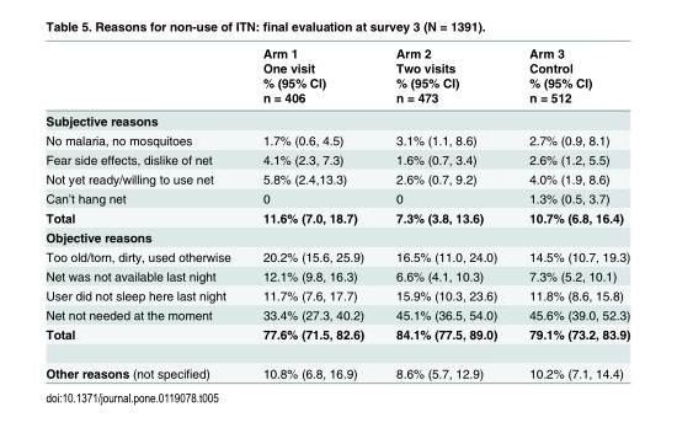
<table><thead><tr><td rowspan="4"></td><td rowspan="4">Arm 1 One visit % (95% CI) n = 406</td><td rowspan="4">Arm 2 Two visits % (95% CI) n = 473</td><td rowspan="4">Arm 3 Control % (95% CI) n = 512</td></tr><tr></tr><tr></tr><tr></tr></thead><tbody><tr><td colspan="4">Subjective reasons</td></tr><tr><td>No malaria, no mosquitoes</td><td>1.7% (0.6, 4.5)</td><td>3.1% (1.1, 8.6)</td><td>2.7% (0.9, 8.1)</td></tr><tr><td>Fear side effects, dislike of net</td><td>4.1% (2.3, 7.3)</td><td>1.6% (0.7, 3.4)</td><td>2.6% (1.2, 5.5)</td></tr><tr><td>Not yet ready/willing to use net</td><td>5.8% (2.4,13.3)</td><td>2.6% (0.7, 9.2)</td><td>4.0% (1.9, 8.6)</td></tr><tr><td>Can’t hang net</td><td>0</td><td>0</td><td>1.3% (0.5, 3.7)</td></tr><tr><td>Total</td><td>11.6% (7.0, 18.7)</td><td>7.3% (3.8, 13.6)</td><td>10.7% (6.8, 16.4)</td></tr><tr><td colspan="4">Objective reasons</td></tr><tr><td>Too old/torn, dirty, used otherwise</td><td>20.2% (15.6, 25.9)</td><td>16.5% (11.0, 24.0)</td><td>14.5% (10.7, 19.3)</td></tr><tr><td>Net was not available last night</td><td>12.1% (9.8, 16.3)</td><td>6.6% (4.1, 10.3)</td><td>7.3% (5.2, 10.1)</td></tr><tr><td>User did not sleep here last night</td><td>11.7% (7.6, 17.7)</td><td>15.9% (10.3, 23.6)</td><td>11.8% (8.6, 15.8)</td></tr><tr><td>Net not needed at the moment</td><td>33.4% (27.3, 40.2)</td><td>45.1% (36.5, 54.0)</td><td>45.6% (39.0, 52.3)</td></tr><tr><td>Total</td><td>77.6% (71.5, 82.6)</td><td>84.1% (77.5, 89.0)</td><td>79.1% (73.2, 83.9)</td></tr><tr><td>Other reasons (not specified)</td><td>10.8% (6.8, 16.9)</td><td>8.6% (5.7, 12.9)</td><td>10.2% (7.1, 14.4)</td></tr></tbody></table>